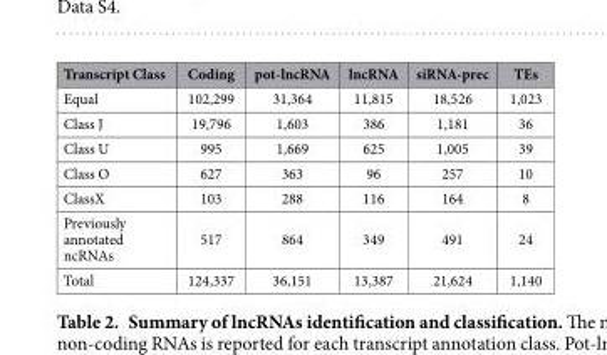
<table><thead><tr><td>Transcript Class</td><td>Coding</td><td>pot-lncRNA</td><td>lncRNA</td><td>siRNA-prec</td><td>TEs</td></tr></thead><tbody><tr><td>Equal</td><td>102,299</td><td>31,364</td><td>11,815</td><td>18,526</td><td>1,023</td></tr><tr><td>Class J</td><td>19,796</td><td>1,603</td><td>386</td><td>1,181</td><td>36</td></tr><tr><td>Class U</td><td>995</td><td>1,669</td><td>625</td><td>1,005</td><td>39</td></tr><tr><td>Class O</td><td>627</td><td>363</td><td>96</td><td>257</td><td>10</td></tr><tr><td>ClassX</td><td>103</td><td>288</td><td>116</td><td>164</td><td>8</td></tr><tr><td>Previously annotated ncRNAs</td><td>517</td><td>864</td><td>349</td><td>491</td><td>24</td></tr><tr><td>Total</td><td>124,337</td><td>36,151</td><td>13,387</td><td>21,624</td><td>1,140</td></tr></tbody></table>